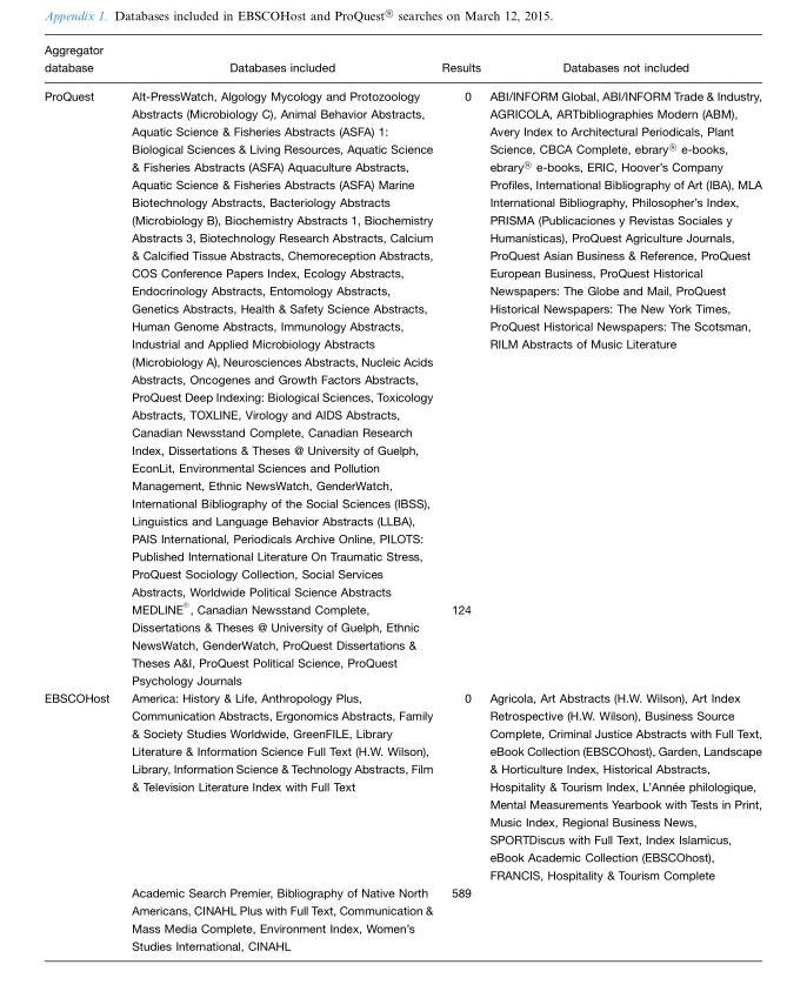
<table><thead><tr><td>Aggregator database</td><td>Databases included</td><td>Results</td><td>Databases not included</td></tr></thead><tbody><tr><td rowspan="2">ProQuest</td><td>Alt-PressWatch, Algology Mycology and Protozoology Abstracts (Microbiology C), Animal Behavior Abstracts, Aquatic Science &amp; Fisheries Abstracts (ASFA) 1: Biological Sciences &amp; Living Resources, Aquatic Science &amp; Fisheries Abstracts (ASFA) Aquaculture Abstracts, Aquatic Science &amp; Fisheries Abstracts (ASFA) Marine Biotechnology Abstracts, Bacteriology Abstracts (Microbiology B), Biochemistry Abstracts 1, Biochemistry Abstracts 3, Biotechnology Research Abstracts, Calcium &amp; Calcified Tissue Abstracts, Chemoreception Abstracts, COS Conference Papers Index, Ecology Abstracts, Endocrinology Abstracts, Entomology Abstracts, Genetics Abstracts, Health &amp; Safety Science Abstracts, Human Genome Abstracts, Immunology Abstracts, Industrial and Applied Microbiology Abstracts (Microbiology A), Neurosciences Abstracts, Nucleic Acids Abstracts, Oncogenes and Growth Factors Abstracts, ProQuest Deep Indexing: Biological Sciences, Toxicology Abstracts, TOXLINE, Virology and AIDS Abstracts, Canadian Newsstand Complete, Canadian Research Index, Dissertations &amp; Theses @ University of Guelph, EconLit, Environmental Sciences and Pollution Management, Ethnic NewsWatch, GenderWatch, International Bibliography of the Social Sciences (IBSS), Linguistics and Language Behavior Abstracts (LLBA), PAIS International, Periodicals Archive Online, PILOTS: Published International Literature On Traumatic Stress, ProQuest Sociology Collection, Social Services Abstracts, Worldwide Political Science Abstracts</td><td>0</td><td>ABI/INFORM Global, ABI/INFORM Trade &amp; Industry, AGRICOLA, ARTbibliographies Modern (ABM), Avery Index to Architectural Periodicals, Plant Science, CBCA Complete, ebrary† e-books, ebrary† e-books, ERIC, Hoover’s Company Profiles, International Bibliography of Art (IBA), MLA International Bibliography, Philosopher’s Index, PRISMA (Publicaciones y Revistas Sociales y Humanı´sticas), ProQuest Agriculture Journals, ProQuest Asian Business &amp; Reference, ProQuest European Business, ProQuest Historical Newspapers: The Globe and Mail, ProQuest Historical Newspapers: The New York Times, ProQuest Historical Newspapers: The Scotsman, RILM Abstracts of Music Literature</td></tr><tr><td>MEDLINE †, Canadian Newsstand Complete, Dissertations &amp; Theses @ University of Guelph, Ethnic NewsWatch, GenderWatch, ProQuest Dissertations &amp; Theses A&amp;I, ProQuest Political Science, ProQuest Psychology Journals</td><td>124</td><td></td></tr><tr><td rowspan="2">EBSCOHost</td><td>America: History &amp; Life, Anthropology Plus, Communication Abstracts, Ergonomics Abstracts, Family &amp; Society Studies Worldwide, GreenFILE, Library Literature &amp; Information Science Full Text (H.W. Wilson), Library, Information Science &amp; Technology Abstracts, Film &amp; Television Literature Index with Full Text</td><td>0</td><td>Agricola, Art Abstracts (H.W. Wilson), Art Index Retrospective (H.W. Wilson), Business Source Complete, Criminal Justice Abstracts with Full Text, eBook Collection (EBSCOhost), Garden, Landscape &amp; Horticulture Index, Historical Abstracts, Hospitality &amp; Tourism Index, L’Anne´ e philologique, Mental Measurements Yearbook with Tests in Print, Music Index, Regional Business News, SPORTDiscus with Full Text, Index Islamicus, eBook Academic Collection (EBSCOhost), FRANCIS, Hospitality &amp; Tourism Complete</td></tr><tr><td>Academic Search Premier, Bibliography of Native North Americans, CINAHL Plus with Full Text, Communication &amp; Mass Media Complete, Environment Index, Women’s Studies International, CINAHL</td><td>589</td><td></td></tr></tbody></table>